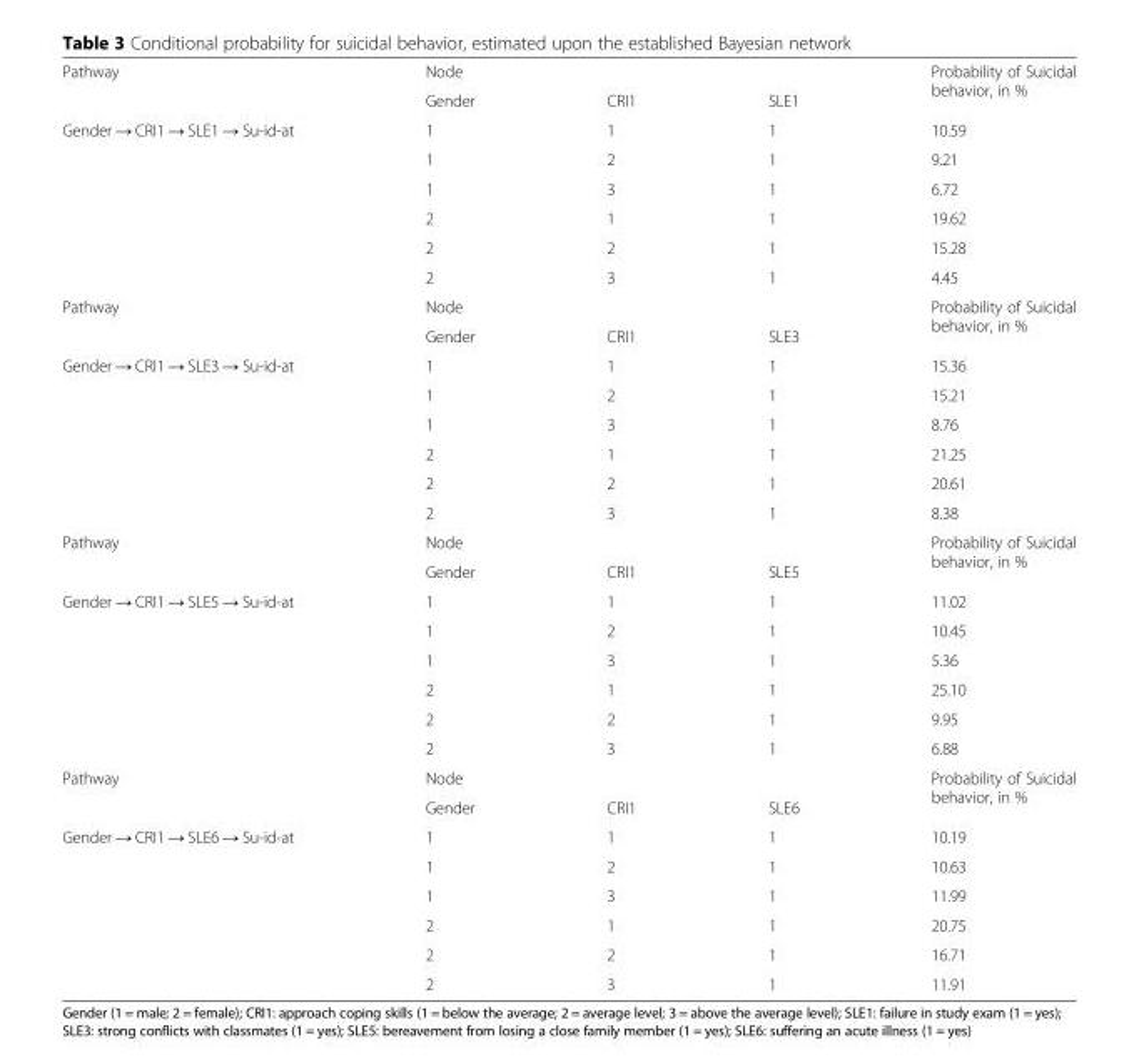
<table><tbody><tr><td rowspan="2">Pathway</td><td colspan="3">Node</td><td rowspan="2">Probability of Suicidal behavior, in %</td></tr><tr><td>Gender</td><td>CRI1</td><td>SLE1</td></tr><tr><td rowspan="6">Gender → CRI1 → SLE1 → Su-id-at</td><td>1</td><td>1</td><td>1</td><td>10.59</td></tr><tr><td>1</td><td>2</td><td>1</td><td>9.21</td></tr><tr><td>1</td><td>3</td><td>1</td><td>6.72</td></tr><tr><td>2</td><td>1</td><td>1</td><td>19.62</td></tr><tr><td>2</td><td>2</td><td>1</td><td>15.28</td></tr><tr><td>2</td><td>3</td><td>1</td><td>4.45</td></tr><tr><td rowspan="2">Pathway</td><td colspan="3">Node</td><td rowspan="2">Probability of Suicidal behavior, in %</td></tr><tr><td>Gender</td><td>CRI1</td><td>SLE3</td></tr><tr><td rowspan="6">Gender → CRI1 → SLE3 → Su-id-at</td><td>1</td><td>1</td><td>1</td><td>15.36</td></tr><tr><td>1</td><td>2</td><td>1</td><td>15.21</td></tr><tr><td>1</td><td>3</td><td>1</td><td>8.76</td></tr><tr><td>2</td><td>1</td><td>1</td><td>21.25</td></tr><tr><td>2</td><td>2</td><td>1</td><td>20.61</td></tr><tr><td>2</td><td>3</td><td>1</td><td>8.38</td></tr><tr><td rowspan="2">Pathway</td><td colspan="3">Node</td><td rowspan="2">Probability of Suicidal behavior, in %</td></tr><tr><td>Gender</td><td>CRI1</td><td>SLE5</td></tr><tr><td rowspan="6">Gender → CRI1 → SLE5 → Su-id-at</td><td>1</td><td>1</td><td>1</td><td>11.02</td></tr><tr><td>1</td><td>2</td><td>1</td><td>10.45</td></tr><tr><td>1</td><td>3</td><td>1</td><td>5.36</td></tr><tr><td>2</td><td>1</td><td>1</td><td>25.10</td></tr><tr><td>2</td><td>2</td><td>1</td><td>9.95</td></tr><tr><td>2</td><td>3</td><td>1</td><td>6.88</td></tr><tr><td rowspan="2">Pathway</td><td colspan="3">Node</td><td rowspan="2">Probability of Suicidal behavior, in %</td></tr><tr><td>Gender</td><td>CRI1</td><td>SLE6</td></tr><tr><td rowspan="6">Gender → CRI1 → SLE6 → Su-id-at</td><td>1</td><td>1</td><td>1</td><td>10.19</td></tr><tr><td>1</td><td>2</td><td>1</td><td>10.63</td></tr><tr><td>1</td><td>3</td><td>1</td><td>11.99</td></tr><tr><td>2</td><td>1</td><td>1</td><td>20.75</td></tr><tr><td>2</td><td>2</td><td>1</td><td>16.71</td></tr><tr><td>2</td><td>3</td><td>1</td><td>11.91</td></tr></tbody></table>